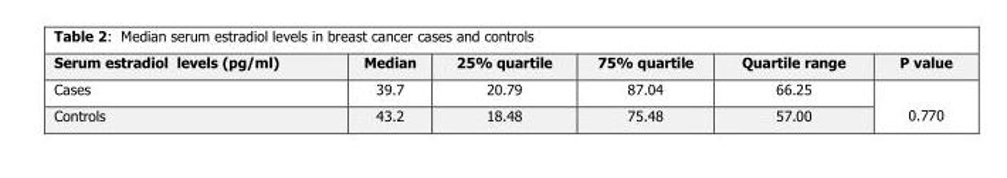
<table><thead><tr><td>Serum estradiol levels (pg/ml)</td><td>Median</td><td>25% quartile</td><td>75% quartile</td><td>Quartile range</td><td>P value</td></tr></thead><tbody><tr><td>Cases</td><td>39.7</td><td>20.79</td><td>87.04</td><td>66.25</td><td rowspan="2">0.770</td></tr><tr><td>Controls</td><td>43.2</td><td>18.48</td><td>75.48</td><td>57.00</td></tr></tbody></table>